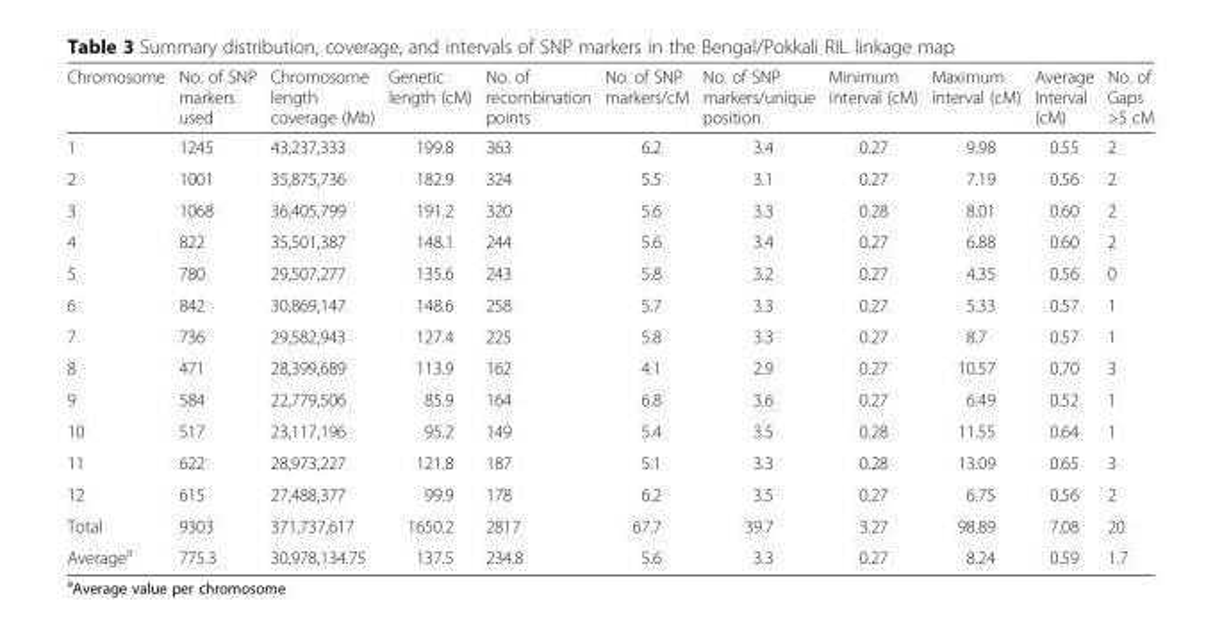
<table><thead><tr><td>Chromosome</td><td>No. of SNP markers used</td><td>Chromosome length coverage (Mb)</td><td>Genetic length (cM)</td><td>No. of recombination points</td><td>No. of SNP markers/cM</td><td>No. of SNP markers/unique position</td><td>Minimum interval (cM)</td><td>Maximum interval (cM)</td><td>Average Interval (cM)</td><td>No. of Gaps &gt;5 cM</td></tr></thead><tbody><tr><td>1</td><td>1245</td><td>43,237,333</td><td>199.8</td><td>363</td><td>6.2</td><td>3.4</td><td>0.27</td><td>9.98</td><td>0.55</td><td>2</td></tr><tr><td>2</td><td>1001</td><td>35,875,736</td><td>182.9</td><td>324</td><td>5.5</td><td>3.1</td><td>0.27</td><td>7.19</td><td>0.56</td><td>2</td></tr><tr><td>3</td><td>1068</td><td>36,405,799</td><td>191.2</td><td>320</td><td>5.6</td><td>3.3</td><td>0.28</td><td>8.01</td><td>0.60</td><td>2</td></tr><tr><td>4</td><td>822</td><td>35,501,387</td><td>148.1</td><td>244</td><td>5.6</td><td>3.4</td><td>0.27</td><td>6.88</td><td>0.60</td><td>2</td></tr><tr><td>5</td><td>780</td><td>29,507,277</td><td>135.6</td><td>243</td><td>5.8</td><td>3.2</td><td>0.27</td><td>4.35</td><td>0.56</td><td>0</td></tr><tr><td>6</td><td>842</td><td>30,869,147</td><td>148.6</td><td>258</td><td>5.7</td><td>3.3</td><td>0.27</td><td>5.33</td><td>0.57</td><td>1</td></tr><tr><td>7</td><td>736</td><td>29,582,943</td><td>127.4</td><td>225</td><td>5.8</td><td>3.3</td><td>0.27</td><td>8.7</td><td>0.57</td><td>1</td></tr><tr><td>8</td><td>471</td><td>28,399,689</td><td>113.9</td><td>162</td><td>4.1</td><td>2.9</td><td>0.27</td><td>10.57</td><td>0.70</td><td>3</td></tr><tr><td>9</td><td>584</td><td>22,779,506</td><td>85.9</td><td>164</td><td>6.8</td><td>3.6</td><td>0.27</td><td>6.49</td><td>0.52</td><td>1</td></tr><tr><td>10</td><td>517</td><td>23,117,196</td><td>95.2</td><td>149</td><td>5.4</td><td>3.5</td><td>0.28</td><td>11.55</td><td>0.64</td><td>1</td></tr><tr><td>11</td><td>622</td><td>28,973,227</td><td>121.8</td><td>187</td><td>5.1</td><td>3.3</td><td>0.28</td><td>13.09</td><td>0.65</td><td>3</td></tr><tr><td>12</td><td>615</td><td>27,488,377</td><td>99.9</td><td>178</td><td>6.2</td><td>3.5</td><td>0.27</td><td>6.75</td><td>0.56</td><td>2</td></tr><tr><td>Total</td><td>9303</td><td>371,737,617</td><td>1650.2</td><td>2817</td><td>67.7</td><td>39.7</td><td>3.27</td><td>98.89</td><td>7.08</td><td>20</td></tr><tr><td>Average<sup>a</sup></td><td>775.3</td><td>30,978,134.75</td><td>137.5</td><td>234.8</td><td>5.6</td><td>3.3</td><td>0.27</td><td>8.24</td><td>0.59</td><td>1.7</td></tr></tbody></table>